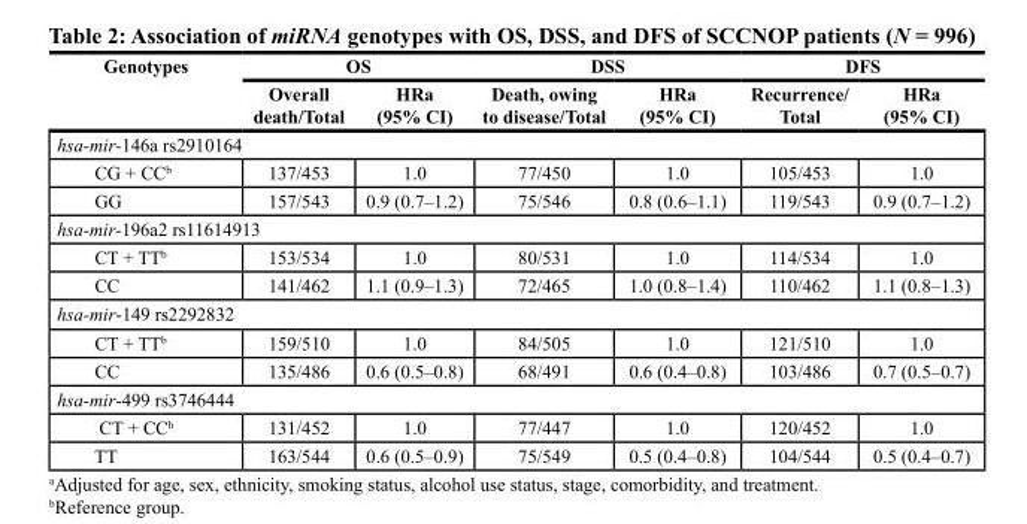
<table><thead><tr><td rowspan="2">Genotypes</td><td colspan="2">OS</td><td colspan="2">DSS</td><td colspan="2">DFS</td></tr><tr><td>Overall death/Total</td><td>HRa (95% CI)</td><td>Death, owing to disease/Total</td><td>HRa (95% CI)</td><td>Recurrence/ Total</td><td>HRa (95% CI)</td></tr></thead><tbody><tr><td colspan="7">hsa-mir-146a rs2910164</td></tr><tr><td>CG + CC<sup>b</sup></td><td>137/453</td><td>1.0</td><td>77/450</td><td>1.0</td><td>105/453</td><td>1.0</td></tr><tr><td>GG</td><td>157/543</td><td>0.9 (0.7–1.2)</td><td>75/546</td><td>0.8 (0.6–1.1)</td><td>119/543</td><td>0.9 (0.7–1.2)</td></tr><tr><td colspan="7">hsa-mir-196a2 rs11614913</td></tr><tr><td>CT + TT<sup>b</sup></td><td>153/534</td><td>1.0</td><td>80/531</td><td>1.0</td><td>114/534</td><td>1.0</td></tr><tr><td>CC</td><td>141/462</td><td>1.1 (0.9–1.3)</td><td>72/465</td><td>1.0 (0.8–1.4)</td><td>110/462</td><td>1.1 (0.8–1.3)</td></tr><tr><td colspan="7">hsa-mir-149 rs2292832</td></tr><tr><td>CT + TT<sup>b</sup></td><td>159/510</td><td>1.0</td><td>84/505</td><td>1.0</td><td>121/510</td><td>1.0</td></tr><tr><td>CC</td><td>135/486</td><td>0.6 (0.5–0.8)</td><td>68/491</td><td>0.6 (0.4–0.8)</td><td>103/486</td><td>0.7 (0.5–0.7)</td></tr><tr><td colspan="7">hsa-mir-499 rs3746444</td></tr><tr><td>CT + CC<sup>b</sup></td><td>131/452</td><td>1.0</td><td>77/447</td><td>1.0</td><td>120/452</td><td>1.0</td></tr><tr><td>TT</td><td>163/544</td><td>0.6 (0.5–0.9)</td><td>75/549</td><td>0.5 (0.4–0.8)</td><td>104/544</td><td>0.5 (0.4–0.7)</td></tr></tbody></table>